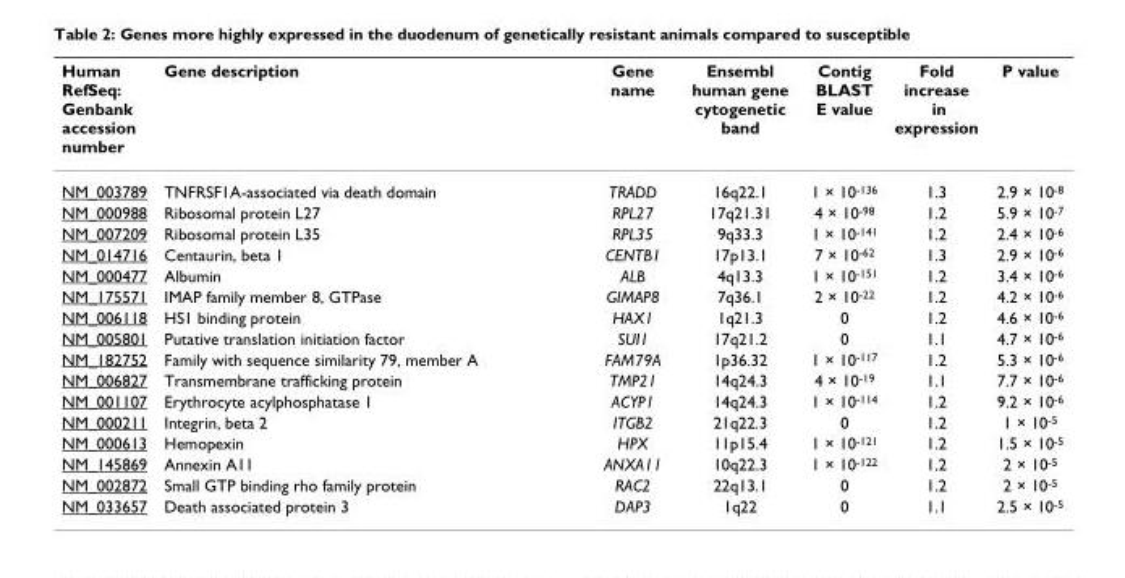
<table><thead><tr><td>Human RefSeq: Genbank accession number</td><td>Gene description</td><td>Gene name</td><td>Ensembl human gene cytogenetic band</td><td>Contig BLAST E value</td><td>Fold increase in expression</td><td>P value</td></tr></thead><tbody><tr><td>NM_003789</td><td>TNFRSF1A-associated via death domain</td><td>TRADD</td><td>16q22.1</td><td>1 × 10-136</td><td>1.3</td><td>2.9 × 10-8</td></tr><tr><td>NM_000988</td><td>Ribosomal protein L27</td><td>RPL27</td><td>17q21.31</td><td>4 × 10-98</td><td>1.2</td><td>5.9 × 10-7</td></tr><tr><td>NM_007209</td><td>Ribosomal protein L35</td><td>RPL35</td><td>9q33.3</td><td>1 × 10-141</td><td>1.2</td><td>2.4 × 10-6</td></tr><tr><td>NM_014716</td><td>Centaurin, beta 1</td><td>CENTB1</td><td>17p13.1</td><td>7 × 10-62</td><td>1.3</td><td>2.9 × 10-6</td></tr><tr><td>NM_000477</td><td>Albumin</td><td>ALB</td><td>4q13.3</td><td>1 × 10-151</td><td>1.2</td><td>3.4 × 10-6</td></tr><tr><td>NM_175571</td><td>IMAP family member 8, GTPase</td><td>GIMAP8</td><td>7q36.1</td><td>2 × 10-22</td><td>1.2</td><td>4.2 × 10-6</td></tr><tr><td>NM_006118</td><td>HS1 binding protein</td><td>HAX1</td><td>1q21.3</td><td>0</td><td>1.2</td><td>4.6 × 10-6</td></tr><tr><td>NM_005801</td><td>Putative translation initiation factor</td><td>SUI1</td><td>17q21.2</td><td>0</td><td>1.1</td><td>4.7 × 10-6</td></tr><tr><td>NM_182752</td><td>Family with sequence similarity 79, member A</td><td>FAM79A</td><td>1p36.32</td><td>1 × 10-117</td><td>1.2</td><td>5.3 × 10-6</td></tr><tr><td>NM_006827</td><td>Transmembrane trafficking protein</td><td>TMP21</td><td>14q24.3</td><td>4 × 10-19</td><td>1.1</td><td>7.7 × 10-6</td></tr><tr><td>NM_001107</td><td>Erythrocyte acylphosphatase 1</td><td>ACYP1</td><td>14q24.3</td><td>1 × 10-114</td><td>1.2</td><td>9.2 × 10-6</td></tr><tr><td>NM_000211</td><td>Integrin, beta 2</td><td>ITGB2</td><td>21q22.3</td><td>0</td><td>1.2</td><td>1 × 10-5</td></tr><tr><td>NM_000613</td><td>Hemopexin</td><td>HPX</td><td>11p15.4</td><td>1 × 10-121</td><td>1.2</td><td>1.5 × 10-5</td></tr><tr><td>NM_145869</td><td>Annexin A11</td><td>ANXA11</td><td>10q22.3</td><td>1 × 10-122</td><td>1.2</td><td>2 × 10-5</td></tr><tr><td>NM_002872</td><td>Small GTP binding rho family protein</td><td>RAC2</td><td>22q13.1</td><td>0</td><td>1.2</td><td>2 × 10-5</td></tr><tr><td>NM_033657</td><td>Death associated protein 3</td><td>DAP3</td><td>1q22</td><td>0</td><td>1.1</td><td>2.5 × 10-5</td></tr></tbody></table>